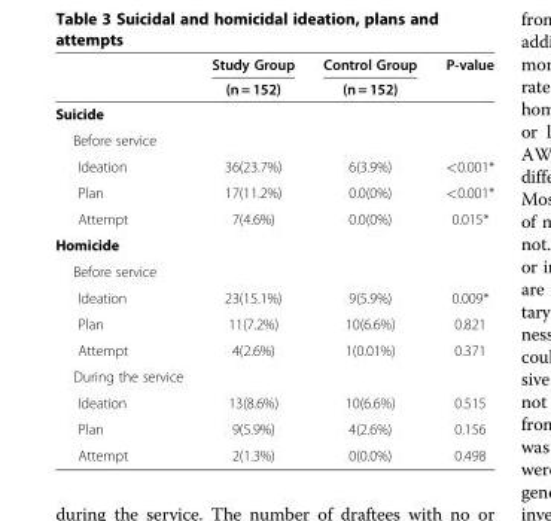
<table><thead><tr><td rowspan="2"></td><td rowspan="2">Study Group (n = 152)</td><td rowspan="2">Control Group (n = 152)</td><td rowspan="2">P-value</td></tr><tr></tr></thead><tbody><tr><td colspan="4">Suicide</td></tr><tr><td colspan="4">Before service</td></tr><tr><td>Ideation</td><td>36(23.7%)</td><td>6(3.9%)</td><td>&lt;0.001*</td></tr><tr><td>Plan</td><td>17(11.2%)</td><td>0.0(0%)</td><td>&lt;0.001*</td></tr><tr><td>Attempt</td><td>7(4.6%)</td><td>0.0(0%)</td><td>0.015*</td></tr><tr><td colspan="4">Homicide</td></tr><tr><td colspan="4">Before service</td></tr><tr><td>Ideation</td><td>23(15.1%)</td><td>9(5.9%)</td><td>0.009*</td></tr><tr><td>Plan</td><td>11(7.2%)</td><td>10(6.6%)</td><td>0.821</td></tr><tr><td>Attempt</td><td>4(2.6%)</td><td>1(0.01%)</td><td>0.371</td></tr><tr><td colspan="4">During the service</td></tr><tr><td>Ideation</td><td>13(8.6%)</td><td>10(6.6%)</td><td>0.515</td></tr><tr><td>Plan</td><td>9(5.9%)</td><td>4(2.6%)</td><td>0.156</td></tr><tr><td>Attempt</td><td>2(1.3%)</td><td>0(0.0%)</td><td>0.498</td></tr></tbody></table>